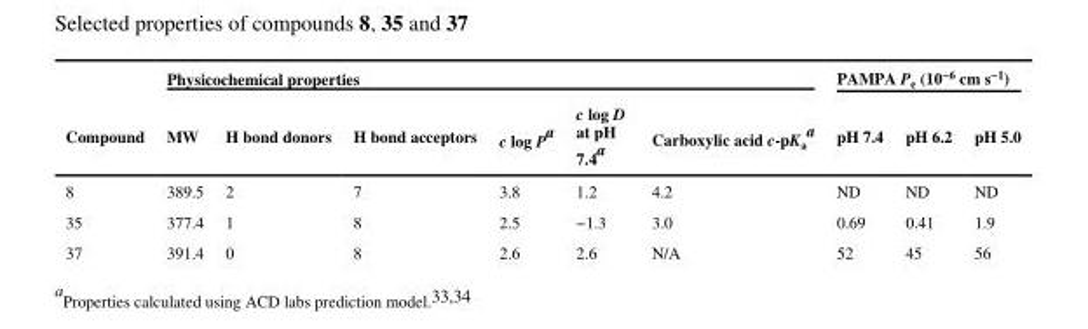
<table><thead><tr><td rowspan="2">Compound</td><td colspan="6">Physicochemical properties</td><td colspan="3">PAMPA P<sub>e</sub> (10<sup>−6</sup> cm s<sup>−1</sup>)</td></tr><tr><td>MW</td><td>H bond donors</td><td>H bond acceptors</td><td>c log P<sup>a</sup></td><td>c log D at pH 7.4<sup>a</sup></td><td>Carboxylic acid c-pK<sub>a</sub><sup>a</sup></td><td>pH 7.4</td><td>pH 6.2</td><td>pH 5.0</td></tr></thead><tbody><tr><td>8</td><td>389.5</td><td>2</td><td>7</td><td>3.8</td><td>1.2</td><td>4.2</td><td>ND</td><td>ND</td><td>ND</td></tr><tr><td>35</td><td>377.4</td><td>1</td><td>8</td><td>2.5</td><td>−1.3</td><td>3.0</td><td>0.69</td><td>0.41</td><td>1.9</td></tr><tr><td>37</td><td>391.4</td><td>0</td><td>8</td><td>2.6</td><td>2.6</td><td>N/A</td><td>52</td><td>45</td><td>56</td></tr></tbody></table>